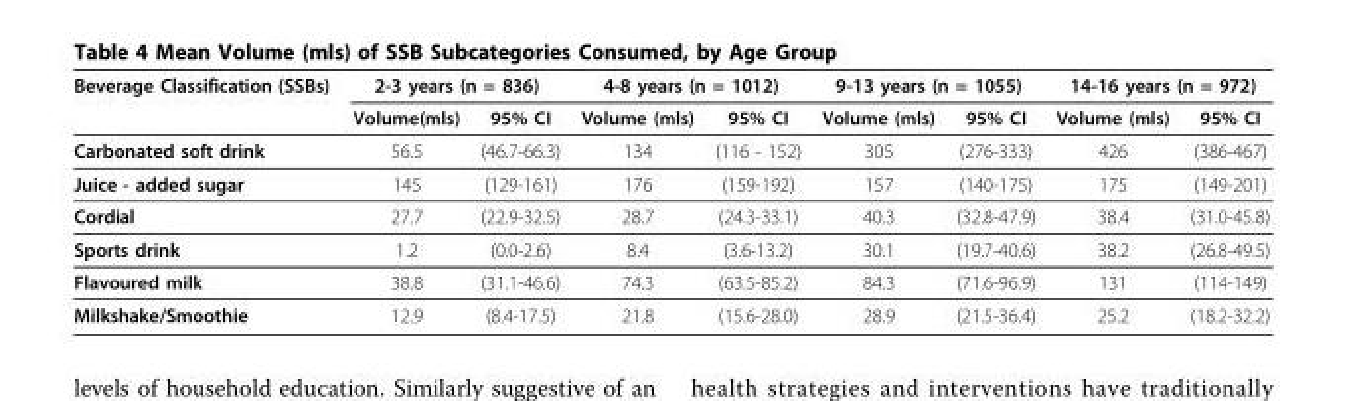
<table><thead><tr><td rowspan="2">Beverage Classification (SSBs)</td><td colspan="2">2-3 years (n = 836)</td><td colspan="2">4-8 years (n = 1012)</td><td colspan="2">9-13 years (n = 1055)</td><td colspan="2">14-16 years (n = 972)</td></tr><tr><td>Volume(mls)</td><td>95% CI</td><td>Volume (mls)</td><td>95% CI</td><td>Volume (mls)</td><td>95% CI</td><td>Volume (mls)</td><td>95% CI</td></tr></thead><tbody><tr><td>Carbonated soft drink</td><td>56.5</td><td>(46.7-66.3)</td><td>134</td><td>(116 - 152)</td><td>305</td><td>(276-333)</td><td>426</td><td>(386-467)</td></tr><tr><td>Juice - added sugar</td><td>145</td><td>(129-161)</td><td>176</td><td>(159-192)</td><td>157</td><td>(140-175)</td><td>175</td><td>(149-201)</td></tr><tr><td>Cordial</td><td>27.7</td><td>(22.9-32.5)</td><td>28.7</td><td>(24.3-33.1)</td><td>40.3</td><td>(32.8-47.9)</td><td>38.4</td><td>(31.0-45.8)</td></tr><tr><td>Sports drink</td><td>1.2</td><td>(0.0-2.6)</td><td>8.4</td><td>(3.6-13.2)</td><td>30.1</td><td>(19.7-40.6)</td><td>38.2</td><td>(26.8-49.5)</td></tr><tr><td>Flavoured milk</td><td>38.8</td><td>(31.1-46.6)</td><td>74.3</td><td>(63.5-85.2)</td><td>84.3</td><td>(71.6-96.9)</td><td>131</td><td>(114-149)</td></tr><tr><td>Milkshake/Smoothie</td><td>12.9</td><td>(8.4-17.5)</td><td>21.8</td><td>(15.6-28.0)</td><td>28.9</td><td>(21.5-36.4)</td><td>25.2</td><td>(18.2-32.2)</td></tr></tbody></table>